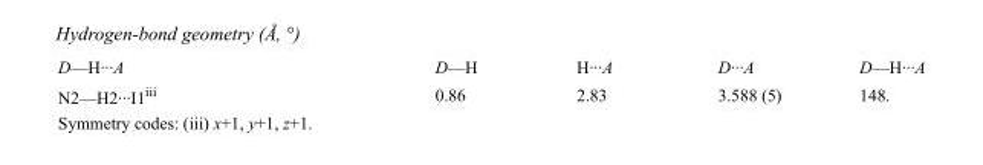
<table><tbody><tr><td>D—H···A</td><td>D—H</td><td>H···A</td><td>D···A</td><td>D—H···A</td></tr><tr><td>N2—H2···I1<sup>iii</sup></td><td>0.86</td><td>2.83</td><td>3.588 (5)</td><td>148.</td></tr></tbody></table>